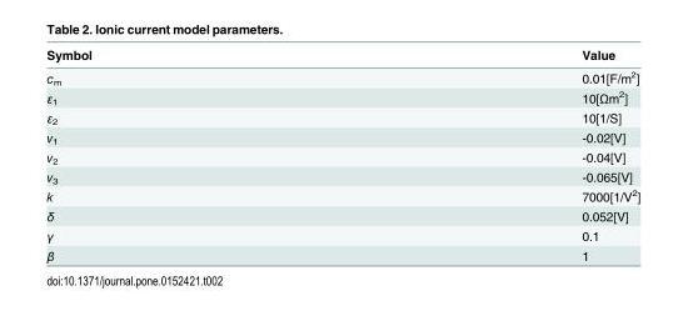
<table><thead><tr><td>Symbol</td><td>Value</td></tr></thead><tbody><tr><td>c<sub>m</sub></td><td>0.01[F/m<sup>2</sup>]</td></tr><tr><td>ε<sub>1</sub></td><td>10[Ωm<sup>2</sup>]</td></tr><tr><td>ε<sub>2</sub></td><td>10[1/S]</td></tr><tr><td>v<sub>1</sub></td><td>-0.02[V]</td></tr><tr><td>v<sub>2</sub></td><td>-0.04[V]</td></tr><tr><td>v<sub>3</sub></td><td>-0.065[V]</td></tr><tr><td>k</td><td>7000[1/V<sup>2</sup>]</td></tr><tr><td>δ</td><td>0.052[V]</td></tr><tr><td>γ</td><td>0.1</td></tr><tr><td>β</td><td>1</td></tr></tbody></table>